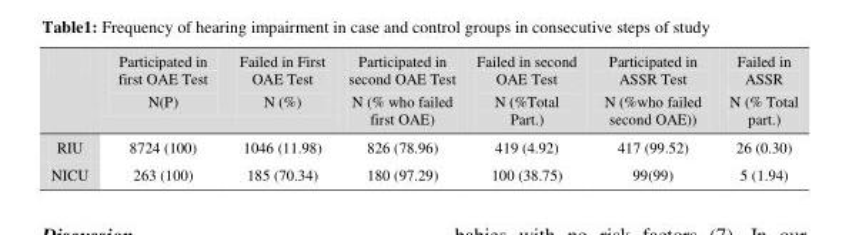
<table><thead><tr><td></td><td>Participated in first OAE Test N(P)</td><td>Failed in First OAE Test N (%)</td><td>Participated in second OAE Test N (% who failed first OAE)</td><td>Failed in second OAE Test N (%Total Part.)</td><td>Participated in ASSR Test N (%who failed second OAE))</td><td>Failed in ASSR N (% Total part.)</td></tr></thead><tbody><tr><td>RIU</td><td>8724 (100)</td><td>1046 (11.98)</td><td>826 (78.96)</td><td>419 (4.92)</td><td>417 (99.52)</td><td>26 (0.30)</td></tr><tr><td>NICU</td><td>263 (100)</td><td>185 (70.34)</td><td>180 (97.29)</td><td>100 (38.75)</td><td>99(99)</td><td>5 (1.94)</td></tr></tbody></table>